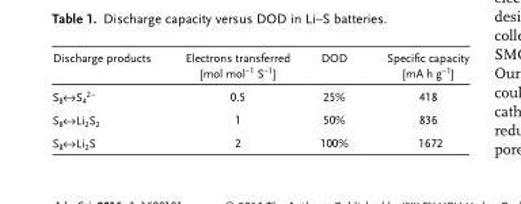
<table><thead><tr><td>Discharge products</td><td>Electrons transferred [mol mol<sup>−1</sup> S<sup>−1</sup>]</td><td>DOD</td><td>Specific capacity [mA h g<sup>−1</sup>]</td></tr></thead><tbody><tr><td>S<sub>8</sub>↔S<sub>4</sub><sup>2−</sup></td><td>0.5</td><td>25%</td><td>418</td></tr><tr><td>S<sub>8</sub>↔Li<sub>2</sub>S<sub>2</sub></td><td>1</td><td>50%</td><td>836</td></tr><tr><td>S<sub>8</sub>↔Li<sub>2</sub>S</td><td>2</td><td>100%</td><td>1672</td></tr></tbody></table>